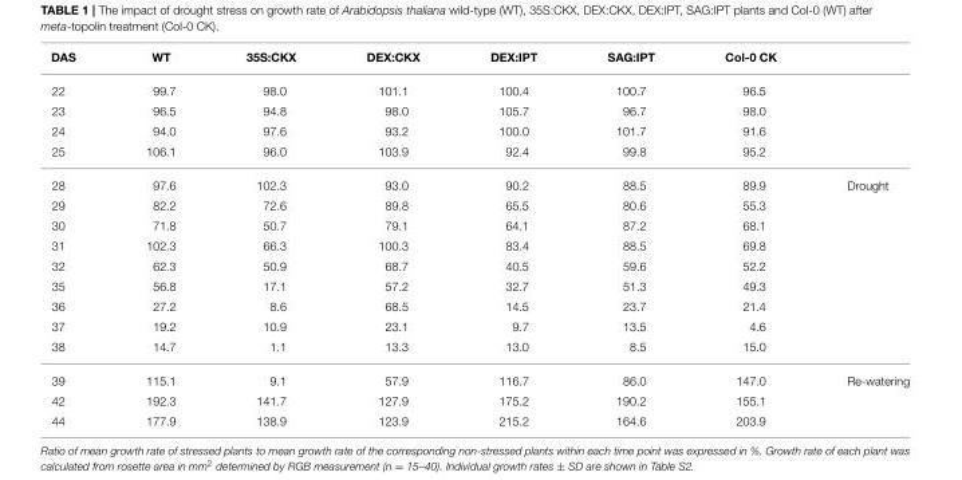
<table><thead><tr><td>DAS</td><td>WT</td><td>35S:CKX</td><td>DEX:CKX</td><td>DEX:IPT</td><td>SAG:IPT</td><td>Col-0 CK</td><td></td></tr></thead><tbody><tr><td>22</td><td>99.7</td><td>98.0</td><td>101.1</td><td>100.4</td><td>100.7</td><td>96.5</td><td></td></tr><tr><td>23</td><td>96.5</td><td>94.8</td><td>98.0</td><td>105.7</td><td>96.7</td><td>98.0</td><td></td></tr><tr><td>24</td><td>94.0</td><td>97.6</td><td>93.2</td><td>100.0</td><td>101.7</td><td>91.6</td><td></td></tr><tr><td>25</td><td>106.1</td><td>96.0</td><td>103.9</td><td>92.4</td><td>99.8</td><td>95.2</td><td></td></tr><tr><td>28</td><td>97.6</td><td>102.3</td><td>93.0</td><td>90.2</td><td>88.5</td><td>89.9</td><td>Drought</td></tr><tr><td>29</td><td>82.2</td><td>72.6</td><td>89.8</td><td>65.5</td><td>80.6</td><td>55.3</td><td></td></tr><tr><td>30</td><td>71.8</td><td>50.7</td><td>79.1</td><td>64.1</td><td>87.2</td><td>68.1</td><td></td></tr><tr><td>31</td><td>102.3</td><td>66.3</td><td>100.3</td><td>83.4</td><td>88.5</td><td>69.8</td><td></td></tr><tr><td>32</td><td>62.3</td><td>50.9</td><td>68.7</td><td>40.5</td><td>59.6</td><td>52.2</td><td></td></tr><tr><td>35</td><td>56.8</td><td>17.1</td><td>57.2</td><td>32.7</td><td>51.3</td><td>49.3</td><td></td></tr><tr><td>36</td><td>27.2</td><td>8.6</td><td>68.5</td><td>14.5</td><td>23.7</td><td>21.4</td><td></td></tr><tr><td>37</td><td>19.2</td><td>10.9</td><td>23.1</td><td>9.7</td><td>13.5</td><td>4.6</td><td></td></tr><tr><td>38</td><td>14.7</td><td>1.1</td><td>13.3</td><td>13.0</td><td>8.5</td><td>15.0</td><td></td></tr><tr><td>39</td><td>115.1</td><td>9.1</td><td>57.9</td><td>116.7</td><td>86.0</td><td>147.0</td><td>Re-watering</td></tr><tr><td>42</td><td>192.3</td><td>141.7</td><td>127.9</td><td>175.2</td><td>190.2</td><td>155.1</td><td></td></tr><tr><td>44</td><td>177.9</td><td>138.9</td><td>123.9</td><td>215.2</td><td>164.6</td><td>203.9</td><td></td></tr></tbody></table>